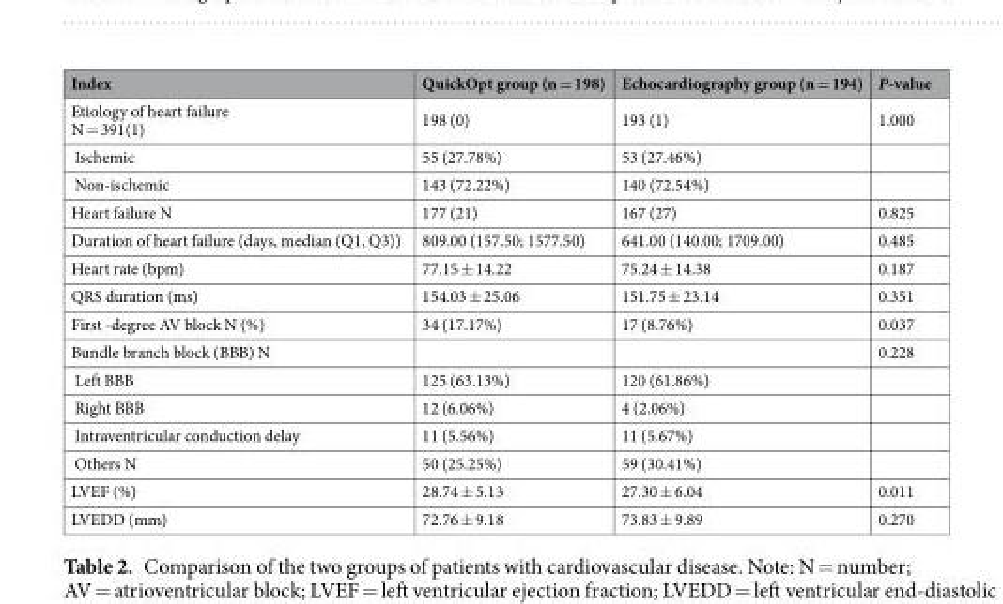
<table><thead><tr><td>Index</td><td>QuickOpt group (n = 198)</td><td>Echocardiography group (n = 194)</td><td>P-value</td></tr></thead><tbody><tr><td>Etiology of heart failure N = 391(1)</td><td>198 (0)</td><td>193 (1)</td><td>1.000</td></tr><tr><td>Ischemic</td><td>55 (27.78%)</td><td>53 (27.46%)</td><td></td></tr><tr><td>Non-ischemic</td><td>143 (72.22%)</td><td>140 (72.54%)</td><td></td></tr><tr><td>Heart failure N</td><td>177 (21)</td><td>167 (27)</td><td>0.825</td></tr><tr><td>Duration of heart failure (days, median (Q1, Q3))</td><td>809.00 (157.50; 1577.50)</td><td>641.00 (140.00; 1709.00)</td><td>0.485</td></tr><tr><td>Heart rate (bpm)</td><td>77.15 ± 14.22</td><td>75.24 ± 14.38</td><td>0.187</td></tr><tr><td>QRS duration (ms)</td><td>154.03 ± 25.06</td><td>151.75 ± 23.14</td><td>0.351</td></tr><tr><td>First -degree AV block N (%)</td><td>34 (17.17%)</td><td>17 (8.76%)</td><td>0.037</td></tr><tr><td>Bundle branch block (BBB) N</td><td></td><td></td><td>0.228</td></tr><tr><td>Left BBB</td><td>125 (63.13%)</td><td>120 (61.86%)</td><td></td></tr><tr><td>Right BBB</td><td>12 (6.06%)</td><td>4 (2.06%)</td><td></td></tr><tr><td>Intraventricular conduction delay</td><td>11 (5.56%)</td><td>11 (5.67%)</td><td></td></tr><tr><td>Others N</td><td>50 (25.25%)</td><td>59 (30.41%)</td><td></td></tr><tr><td>LVEF (%)</td><td>28.74 ± 5.13</td><td>27.30 ± 6.04</td><td>0.011</td></tr><tr><td>LVEDD (mm)</td><td>72.76 ± 9.18</td><td>73.83 ± 9.89</td><td>0.270</td></tr></tbody></table>